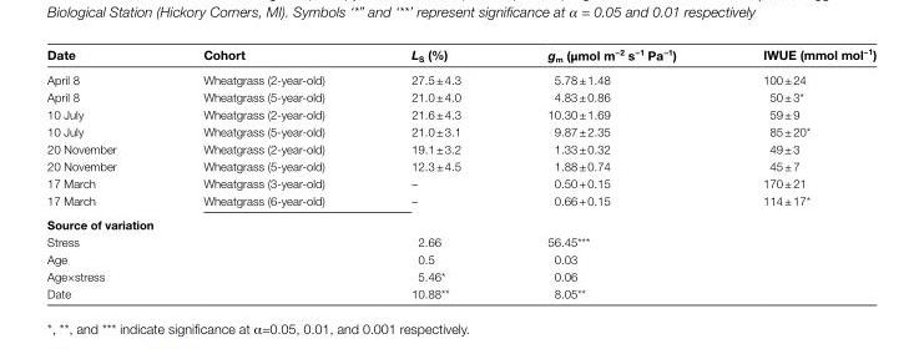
<table><thead><tr><td>Date</td><td>Cohort</td><td>L<sub>S</sub> (%)</td><td>g<sub>m</sub> (µmol m<sup>−2</sup> s<sup>−1</sup> Pa<sup>−1</sup>)</td><td>IWUE (mmol mol<sup>−1</sup>)</td></tr></thead><tbody><tr><td>April 8</td><td>Wheatgrass (2-year-old)</td><td>27.5 ± 4.3</td><td>5.78 ± 1.48</td><td>100 ± 24</td></tr><tr><td>April 8</td><td>Wheatgrass (5-year-old)</td><td>21.0 ± 4.0</td><td>4.83 ± 0.86</td><td>50 ± 3*</td></tr><tr><td>10 July</td><td>Wheatgrass (2-year-old)</td><td>21.6 ± 4.3</td><td>10.30 ± 1.69</td><td>59 ± 9</td></tr><tr><td>10 July</td><td>Wheatgrass (5-year-old)</td><td>21.0 ± 3.1</td><td>9.87 ± 2.35</td><td>85 ± 20*</td></tr><tr><td>20 November</td><td>Wheatgrass (2-year-old)</td><td>19.1 ± 3.2</td><td>1.33 ± 0.32</td><td>49 ± 3</td></tr><tr><td>20 November</td><td>Wheatgrass (5-year-old)</td><td>12.3 ± 4.5</td><td>1.88 ± 0.74</td><td>45 ± 7</td></tr><tr><td>17 March</td><td>Wheatgrass (3-year-old)</td><td>–</td><td>0.50 + 0.15</td><td>170 ± 21</td></tr><tr><td>17 March</td><td>Wheatgrass (6-year-old)</td><td>–</td><td>0.66 + 0.15</td><td>114 ± 17*</td></tr><tr><td colspan="5">Source of variation</td></tr><tr><td colspan="2">Stress</td><td>2.66</td><td>56.45***</td><td></td></tr><tr><td colspan="2">Age</td><td>0.5</td><td>0.03</td><td></td></tr><tr><td colspan="2">Age×stress</td><td>5.46*</td><td>0.06</td><td></td></tr><tr><td colspan="2">Date</td><td>10.88**</td><td>8.05**</td><td></td></tr></tbody></table>